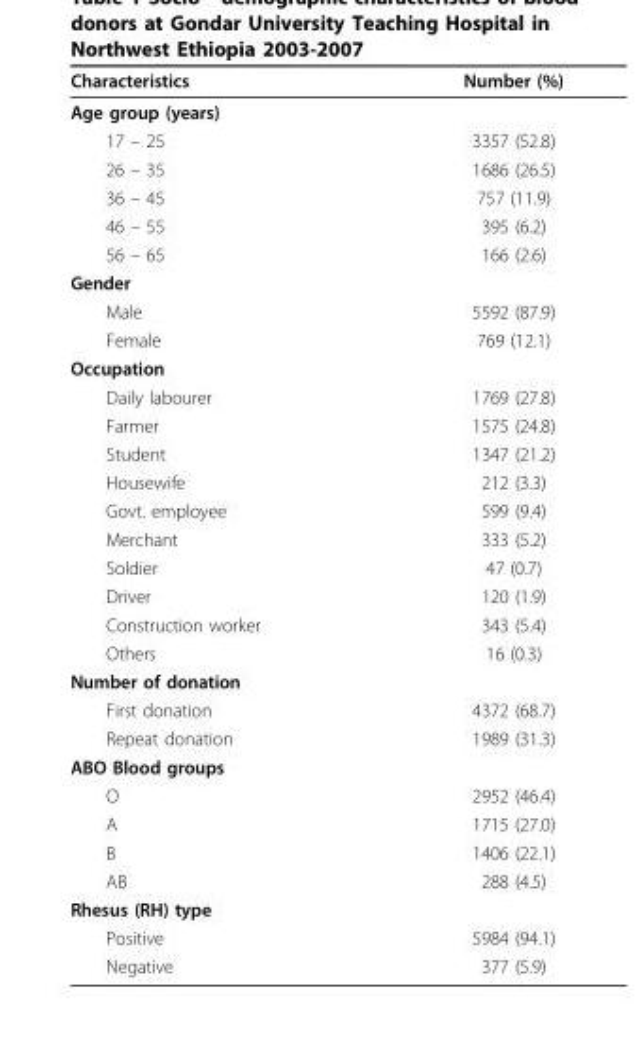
<table><thead><tr><td>Characteristics</td><td>Number (%)</td></tr></thead><tbody><tr><td colspan="2">Age group (years)</td></tr><tr><td>17 – 25</td><td>3357 (52.8)</td></tr><tr><td>26 – 35</td><td>1686 (26.5)</td></tr><tr><td>36 – 45</td><td>757 (11.9)</td></tr><tr><td>46 – 55</td><td>395 (6.2)</td></tr><tr><td>56 – 65</td><td>166 (2.6)</td></tr><tr><td colspan="2">Gender</td></tr><tr><td>Male</td><td>5592 (87.9)</td></tr><tr><td>Female</td><td>769 (12.1)</td></tr><tr><td colspan="2">Occupation</td></tr><tr><td>Daily labourer</td><td>1769 (27.8)</td></tr><tr><td>Farmer</td><td>1575 (24.8)</td></tr><tr><td>Student</td><td>1347 (21.2)</td></tr><tr><td>Housewife</td><td>212 (3.3)</td></tr><tr><td>Govt. employee</td><td>599 (9.4)</td></tr><tr><td>Merchant</td><td>333 (5.2)</td></tr><tr><td>Soldier</td><td>47 (0.7)</td></tr><tr><td>Driver</td><td>120 (1.9)</td></tr><tr><td>Construction worker</td><td>343 (5.4)</td></tr><tr><td>Others</td><td>16 (0.3)</td></tr><tr><td colspan="2">Number of donation</td></tr><tr><td>First donation</td><td>4372 (68.7)</td></tr><tr><td>Repeat donation</td><td>1989 (31.3)</td></tr><tr><td colspan="2">ABO Blood groups</td></tr><tr><td>O</td><td>2952 (46.4)</td></tr><tr><td>A</td><td>1715 (27.0)</td></tr><tr><td>B</td><td>1406 (22.1)</td></tr><tr><td>AB</td><td>288 (4.5)</td></tr><tr><td colspan="2">Rhesus (RH) type</td></tr><tr><td>Positive</td><td>5984 (94.1)</td></tr><tr><td>Negative</td><td>377 (5.9)</td></tr></tbody></table>